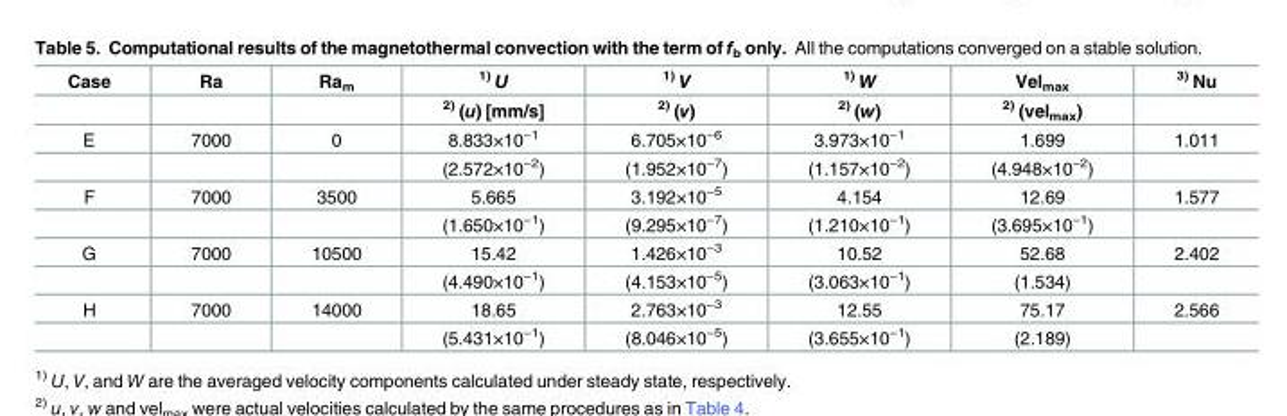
<table><thead><tr><td rowspan="2">Case</td><td rowspan="2">Ra</td><td rowspan="2">Ra<sub>m</sub></td><td rowspan="2"><sup>1)</sup> U <sup>2)</sup> (u) [mm/s]</td><td rowspan="2"><sup>1)</sup> V <sup>2)</sup> (v)</td><td rowspan="2"><sup>1)</sup> W <sup>2)</sup> (w)</td><td rowspan="2">Vel<sub>max</sub> <sup>2)</sup> (vel<sub>max</sub>)</td><td rowspan="2"><sup>3)</sup> Nu</td></tr><tr></tr></thead><tbody><tr><td rowspan="2">E</td><td>7000</td><td>0</td><td>8.833×10<sup>−1</sup></td><td>6.705×10<sup>−6</sup></td><td>3.973×10<sup>−1</sup></td><td>1.699</td><td>1.011</td></tr><tr><td></td><td></td><td>(2.572×10<sup>−2</sup>)</td><td>(1.952×10<sup>−7</sup>)</td><td>(1.157×10<sup>−2</sup>)</td><td>(4.948×10<sup>−2</sup>)</td><td></td></tr><tr><td rowspan="2">F</td><td>7000</td><td>3500</td><td>5.665</td><td>3.192×10<sup>−5</sup></td><td>4.154</td><td>12.69</td><td>1.577</td></tr><tr><td></td><td></td><td>(1.650×10<sup>−1</sup>)</td><td>(9.295×10<sup>−7</sup>)</td><td>(1.210×10<sup>−1</sup>)</td><td>(3.695×10<sup>−1</sup>)</td><td></td></tr><tr><td rowspan="2">G</td><td>7000</td><td>10500</td><td>15.42</td><td>1.426×10<sup>−3</sup></td><td>10.52</td><td>52.68</td><td>2.402</td></tr><tr><td></td><td></td><td>(4.490×10<sup>−1</sup>)</td><td>(4.153×10<sup>−5</sup>)</td><td>(3.063×10<sup>−1</sup>)</td><td>(1.534)</td><td></td></tr><tr><td rowspan="2">H</td><td>7000</td><td>14000</td><td>18.65</td><td>2.763×10<sup>−3</sup></td><td>12.55</td><td>75.17</td><td>2.566</td></tr><tr><td></td><td></td><td>(5.431×10<sup>−1</sup>)</td><td>(8.046×10<sup>−5</sup>)</td><td>(3.655×10<sup>−1</sup>)</td><td>(2.189)</td><td></td></tr></tbody></table>